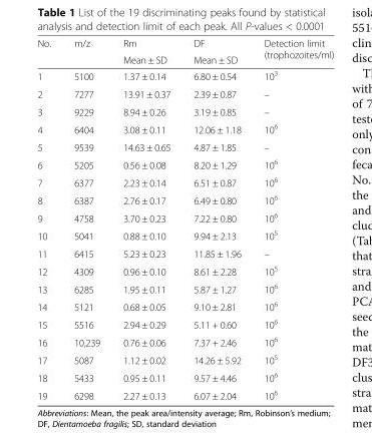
<table><thead><tr><td rowspan="2">No.</td><td rowspan="2">m/z</td><td rowspan="2">Rm Mean ± SD</td><td rowspan="2">DF Mean ± SD</td><td rowspan="2">Detection limit (trophozoites/ml)</td></tr><tr></tr></thead><tbody><tr><td>1</td><td>5100</td><td>1.37 ± 0.14</td><td>6.80 ± 0.54</td><td>10<sup>3</sup></td></tr><tr><td>2</td><td>7277</td><td>13.91 ± 0.37</td><td>2.39 ± 0.87</td><td>–</td></tr><tr><td>3</td><td>9229</td><td>8.94 ± 0.26</td><td>3.19 ± 0.85</td><td>–</td></tr><tr><td>4</td><td>6404</td><td>3.08 ± 0.11</td><td>12.06 ± 1.18</td><td>10<sup>6</sup></td></tr><tr><td>5</td><td>9539</td><td>14.63 ± 0.65</td><td>4.87 ± 1.85</td><td>–</td></tr><tr><td>6</td><td>5205</td><td>0.56 ± 0.08</td><td>8.20 ± 1.29</td><td>10<sup>6</sup></td></tr><tr><td>7</td><td>6377</td><td>2.23 ± 0.14</td><td>6.51 ± 0.87</td><td>10<sup>6</sup></td></tr><tr><td>8</td><td>6387</td><td>2.76 ± 0.17</td><td>6.49 ± 0.80</td><td>10<sup>6</sup></td></tr><tr><td>9</td><td>4758</td><td>3.70 ± 0.23</td><td>7.22 ± 0.80</td><td>10<sup>6</sup></td></tr><tr><td>10</td><td>5041</td><td>0.88 ± 0.10</td><td>9.94 ± 2.13</td><td>10<sup>5</sup></td></tr><tr><td>11</td><td>6415</td><td>5.23 ± 0.23</td><td>11.85 ± 1.96</td><td>–</td></tr><tr><td>12</td><td>4309</td><td>0.96 ± 0.10</td><td>8.61 ± 2.28</td><td>10<sup>5</sup></td></tr><tr><td>13</td><td>6285</td><td>1.95 ± 0.11</td><td>5.87 ± 1.27</td><td>10<sup>6</sup></td></tr><tr><td>14</td><td>5121</td><td>0.68 ± 0.05</td><td>9.10 ± 2.81</td><td>10<sup>6</sup></td></tr><tr><td>15</td><td>5516</td><td>2.94 ± 0.29</td><td>5.11 + 0.60</td><td>10<sup>6</sup></td></tr><tr><td>16</td><td>10,239</td><td>0.76 ± 0.06</td><td>7.37 + 2.46</td><td>10<sup>6</sup></td></tr><tr><td>17</td><td>5087</td><td>1.12 ± 0.02</td><td>14.26 ± 5.92</td><td>10<sup>5</sup></td></tr><tr><td>18</td><td>5433</td><td>0.95 ± 0.11</td><td>9.57 ± 4.46</td><td>10<sup>6</sup></td></tr><tr><td>19</td><td>6298</td><td>2.27 ± 0.13</td><td>6.07 ± 2.04</td><td>10<sup>6</sup></td></tr></tbody></table>